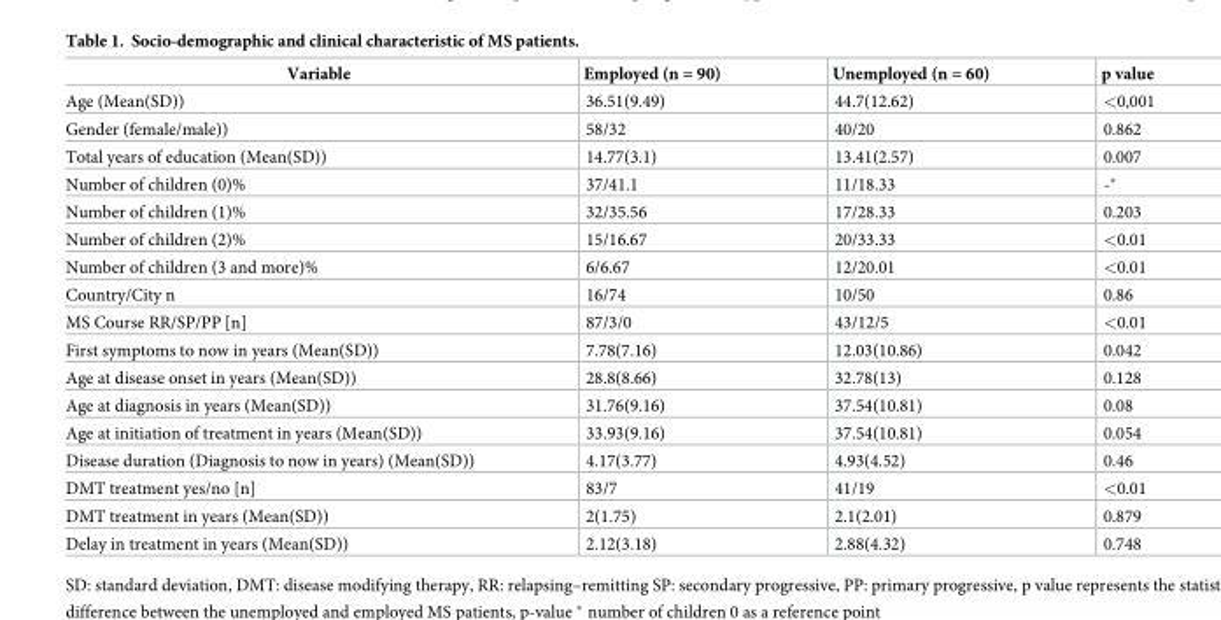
<table><thead><tr><td>Variable</td><td>Employed (n = 90)</td><td>Unemployed (n = 60)</td><td>p value</td></tr></thead><tbody><tr><td>Age (Mean(SD))</td><td>36.51(9.49)</td><td>44.7(12.62)</td><td>&lt;0,001</td></tr><tr><td>Gender (female/male))</td><td>58/32</td><td>40/20</td><td>0.862</td></tr><tr><td>Total years of education (Mean(SD))</td><td>14.77(3.1)</td><td>13.41(2.57)</td><td>0.007</td></tr><tr><td>Number of children (0)%</td><td>37/41.1</td><td>11/18.33</td><td>-*</td></tr><tr><td>Number of children (1)%</td><td>32/35.56</td><td>17/28.33</td><td>0.203</td></tr><tr><td>Number of children (2)%</td><td>15/16.67</td><td>20/33.33</td><td>&lt;0.01</td></tr><tr><td>Number of children (3 and more)%</td><td>6/6.67</td><td>12/20.01</td><td>&lt;0.01</td></tr><tr><td>Country/City n</td><td>16/74</td><td>10/50</td><td>0.86</td></tr><tr><td>MS Course RR/SP/PP [n]</td><td>87/3/0</td><td>43/12/5</td><td>&lt;0.01</td></tr><tr><td>First symptoms to now in years (Mean(SD))</td><td>7.78(7.16)</td><td>12.03(10.86)</td><td>0.042</td></tr><tr><td>Age at disease onset in years (Mean(SD))</td><td>28.8(8.66)</td><td>32.78(13)</td><td>0.128</td></tr><tr><td>Age at diagnosis in years (Mean(SD))</td><td>31.76(9.16)</td><td>37.54(10.81)</td><td>0.08</td></tr><tr><td>Age at initiation of treatment in years (Mean(SD))</td><td>33.93(9.16)</td><td>37.54(10.81)</td><td>0.054</td></tr><tr><td>Disease duration (Diagnosis to now in years) (Mean(SD))</td><td>4.17(3.77)</td><td>4.93(4.52)</td><td>0.46</td></tr><tr><td>DMT treatment yes/no [n]</td><td>83/7</td><td>41/19</td><td>&lt;0.01</td></tr><tr><td>DMT treatment in years (Mean(SD))</td><td>2(1.75)</td><td>2.1(2.01)</td><td>0.879</td></tr><tr><td>Delay in treatment in years (Mean(SD))</td><td>2.12(3.18)</td><td>2.88(4.32)</td><td>0.748</td></tr></tbody></table>